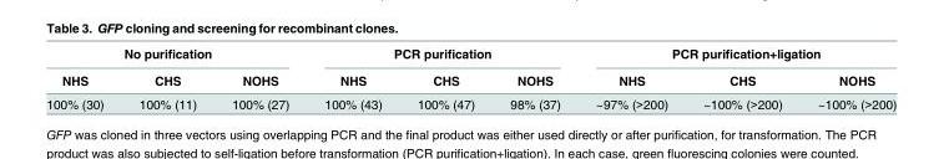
<table><thead><tr><td colspan="3">No purification</td><td colspan="3">PCR purification</td><td colspan="3">PCR purification+ligation</td></tr><tr><td>NHS</td><td>CHS</td><td>NOHS</td><td>NHS</td><td>CHS</td><td>NOHS</td><td>NHS</td><td>CHS</td><td>NOHS</td></tr></thead><tbody><tr><td>100% (30)</td><td>100% (11)</td><td>100% (27)</td><td>100% (43)</td><td>100% (47)</td><td>98% (37)</td><td>~97% (&gt;200)</td><td>~100% (&gt;200)</td><td>~100% (&gt;200)</td></tr></tbody></table>